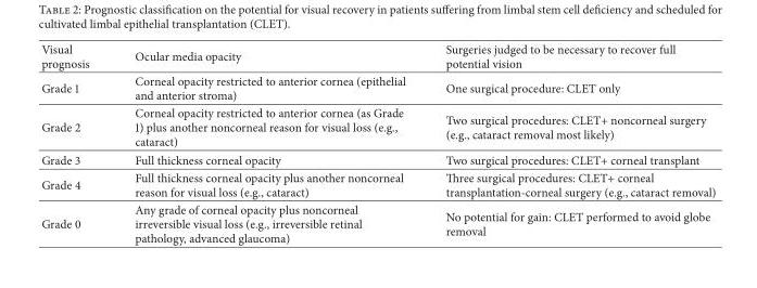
<table><thead><tr><td>Visual prognosis</td><td>Ocular media opacity</td><td>Surgeries judged to be necessary to recover full potential vision</td></tr></thead><tbody><tr><td>Grade 1</td><td>Corneal opacity restricted to anterior cornea (epithelial and anterior stroma)</td><td>One surgical procedure: CLET only</td></tr><tr><td>Grade 2</td><td>Corneal opacity restricted to anterior cornea (as Grade 1) plus another noncorneal reason for visual loss (e.g., cataract)</td><td>Two surgical procedures: CLET+ noncorneal surgery (e.g., cataract removal most likely)</td></tr><tr><td>Grade 3</td><td>Full thickness corneal opacity</td><td>Two surgical procedures: CLET+ corneal transplant</td></tr><tr><td>Grade 4</td><td>Full thickness corneal opacity plus another noncorneal reason for visual loss (e.g., cataract)</td><td>Three surgical procedures: CLET+ corneal transplantation-corneal surgery (e.g., cataract removal)</td></tr><tr><td>Grade 0</td><td>Any grade of corneal opacity plus noncorneal irreversible visual loss (e.g., irreversible retinal pathology, advanced glaucoma)</td><td>No potential for gain: CLET performed to avoid globe removal</td></tr></tbody></table>